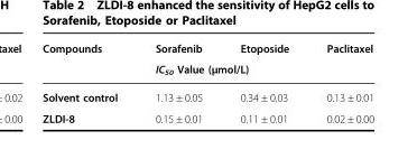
<table><thead><tr><td rowspan="2">Compounds</td><td>Sorafenib</td><td>Etoposide</td><td>Paclitaxel</td></tr><tr><td colspan="3">IC<sub>50</sub> Value (μmol/L)</td></tr></thead><tbody><tr><td>Solvent control</td><td>1.13 ± 0.05</td><td>0.34 ± 0.03</td><td>0.13 ± 0.01</td></tr><tr><td>ZLDI-8</td><td>0.15 ± 0.01</td><td>0.11 ± 0.01</td><td>0.02 ± 0.00</td></tr></tbody></table>